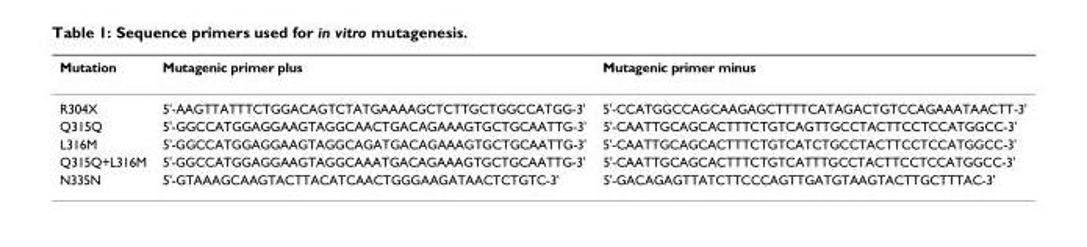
<table><thead><tr><td>Mutation</td><td>Mutagenic primer plus</td><td>Mutagenic primer minus</td></tr></thead><tbody><tr><td>R304X</td><td>5&#x27;-AAGTTATTTCTGGACAGTCTATGAAAAGCTCTTGCTGGCCATGG-3&#x27;</td><td>5&#x27;-CCATGGCCAGCAAGAGCTTTTCATAGACTGTCCAGAAATAACTT-3&#x27;</td></tr><tr><td>Q315Q</td><td>5&#x27;-GGCCATGGAGGAAGTAGGCAACTGACAGAAAGTGCTGCAATTG-3&#x27;</td><td>5&#x27;-CAATTGCAGCACTTTCTGTCAGTTGCCTACTTCCTCCATGGCC-3&#x27;</td></tr><tr><td>L316M</td><td>5&#x27;-GGCCATGGAGGAAGTAGGCAGATGACAGAAAGTGCTGCAATTG-3&#x27;</td><td>5&#x27;-CAATTGCAGCACTTTCTGTCATCTGCCTACTTCCTCCATGGCC-3&#x27;</td></tr><tr><td>Q315Q+L316M</td><td>5&#x27;-GGCCATGGAGGAAGTAGGCAAATGACAGAAAGTGCTGCAATTG-3&#x27;</td><td>5&#x27;-CAATTGCAGCACTTTCTGTCATTTGCCTACTTCCTCCATGGCC-3&#x27;</td></tr><tr><td>N335N</td><td>5&#x27;-GTAAAGCAAGTACTTACATCAACTGGGAAGATAACTCTGTC-3&#x27;</td><td>5&#x27;-GACAGAGTTATCTTCCCAGTTGATGTAAGTACTTGCTTTAC-3&#x27;</td></tr></tbody></table>